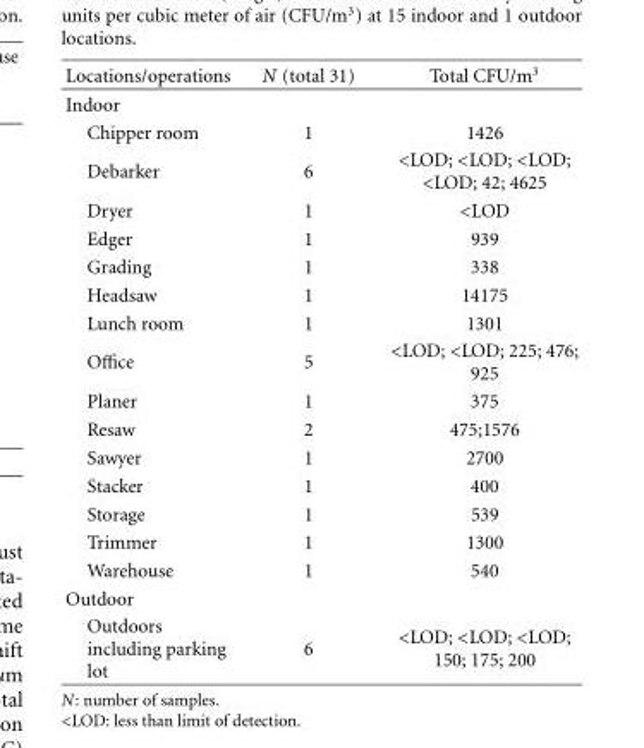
<table><thead><tr><td>Locations/operations</td><td>N (total 31)</td><td>Total CFU/m<sup>3</sup></td></tr></thead><tbody><tr><td colspan="3">Indoor</td></tr><tr><td>Chipper room</td><td>1</td><td>1426</td></tr><tr><td>Debarker</td><td>6</td><td>&lt;LOD; &lt;LOD; &lt;LOD; &lt;LOD; 42; 4625</td></tr><tr><td>Dryer</td><td>1</td><td>&lt;LOD</td></tr><tr><td>Edger</td><td>1</td><td>939</td></tr><tr><td>Grading</td><td>1</td><td>338</td></tr><tr><td>Headsaw</td><td>1</td><td>14175</td></tr><tr><td>Lunch room</td><td>1</td><td>1301</td></tr><tr><td>Office</td><td>5</td><td>&lt;LOD; &lt;LOD; 225; 476; 925</td></tr><tr><td>Planer</td><td>1</td><td>375</td></tr><tr><td>Resaw</td><td>2</td><td>475;1576</td></tr><tr><td>Sawyer</td><td>1</td><td>2700</td></tr><tr><td>Stacker</td><td>1</td><td>400</td></tr><tr><td>Storage</td><td>1</td><td>539</td></tr><tr><td>Trimmer</td><td>1</td><td>1300</td></tr><tr><td>Warehouse</td><td>1</td><td>540</td></tr><tr><td colspan="3">Outdoor</td></tr><tr><td>Outdoors including parking lot</td><td>6</td><td>&lt;LOD; &lt;LOD; &lt;LOD; 150; 175; 200</td></tr></tbody></table>